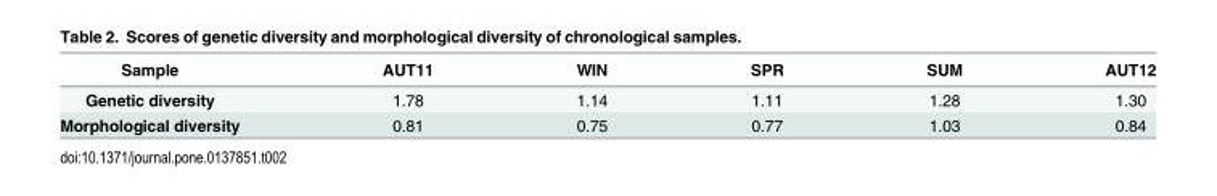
<table><thead><tr><td>Sample</td><td>AUT11</td><td>WIN</td><td>SPR</td><td>SUM</td><td>AUT12</td></tr></thead><tbody><tr><td>Genetic diversity</td><td>1.78</td><td>1.14</td><td>1.11</td><td>1.28</td><td>1.30</td></tr><tr><td>Morphological diversity</td><td>0.81</td><td>0.75</td><td>0.77</td><td>1.03</td><td>0.84</td></tr></tbody></table>